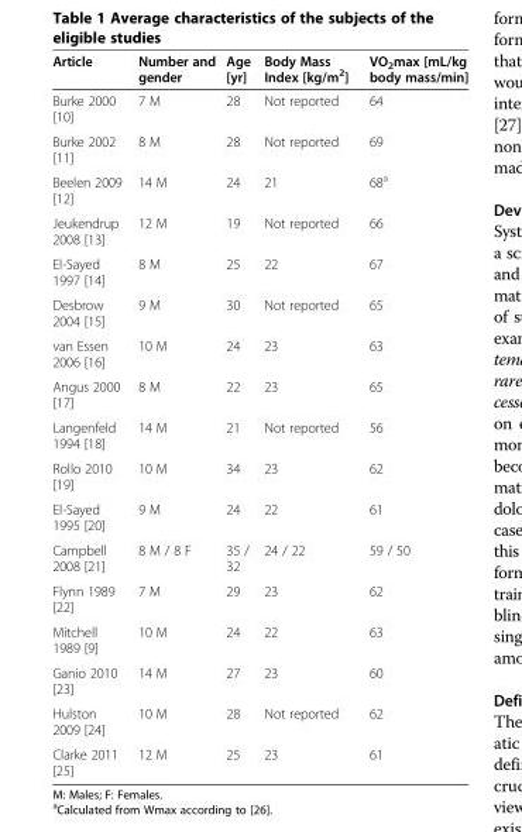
<table><thead><tr><td>Article</td><td>Number and gender</td><td>Age [yr]</td><td>Body Mass Index [kg/m<sup>2</sup>]</td><td>VO<sub>2</sub>max [mL/kg body mass/min]</td></tr></thead><tbody><tr><td>Burke 2000 [10]</td><td>7 M</td><td>28</td><td>Not reported</td><td>64</td></tr><tr><td>Burke 2002 [11]</td><td>8 M</td><td>28</td><td>Not reported</td><td>69</td></tr><tr><td>Beelen 2009 [12]</td><td>14 M</td><td>24</td><td>21</td><td>68<sup>a</sup></td></tr><tr><td>Jeukendrup 2008 [13]</td><td>12 M</td><td>19</td><td>Not reported</td><td>66</td></tr><tr><td>El-Sayed 1997 [14]</td><td>8 M</td><td>25</td><td>22</td><td>67</td></tr><tr><td>Desbrow 2004 [15]</td><td>9 M</td><td>30</td><td>Not reported</td><td>65</td></tr><tr><td>van Essen 2006 [16]</td><td>10 M</td><td>24</td><td>23</td><td>63</td></tr><tr><td>Angus 2000 [17]</td><td>8 M</td><td>22</td><td>23</td><td>65</td></tr><tr><td>Langenfeld 1994 [18]</td><td>14 M</td><td>21</td><td>Not reported</td><td>56</td></tr><tr><td>Rollo 2010 [19]</td><td>10 M</td><td>34</td><td>23</td><td>62</td></tr><tr><td>El-Sayed 1995 [20]</td><td>9 M</td><td>24</td><td>22</td><td>61</td></tr><tr><td>Campbell 2008 [21]</td><td>8 M / 8 F</td><td>35 / 32</td><td>24 / 22</td><td>59 / 50</td></tr><tr><td>Flynn 1989 [22]</td><td>7 M</td><td>29</td><td>23</td><td>62</td></tr><tr><td>Mitchell 1989 [9]</td><td>10 M</td><td>24</td><td>22</td><td>63</td></tr><tr><td>Ganio 2010 [23]</td><td>14 M</td><td>27</td><td>23</td><td>60</td></tr><tr><td>Hulston 2009 [24]</td><td>10 M</td><td>28</td><td>Not reported</td><td>62</td></tr><tr><td>Clarke 2011 [25]</td><td>12 M</td><td>25</td><td>23</td><td>61</td></tr></tbody></table>